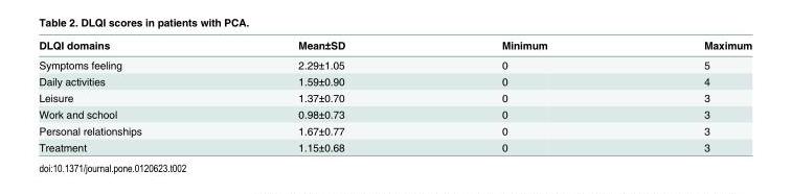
<table><thead><tr><td>DLQI domains</td><td>Mean±SD</td><td>Minimum</td><td>Maximum</td></tr></thead><tbody><tr><td>Symptoms feeling</td><td>2.29±1.05</td><td>0</td><td>5</td></tr><tr><td>Daily activities</td><td>1.59±0.90</td><td>0</td><td>4</td></tr><tr><td>Leisure</td><td>1.37±0.70</td><td>0</td><td>3</td></tr><tr><td>Work and school</td><td>0.98±0.73</td><td>0</td><td>3</td></tr><tr><td>Personal relationships</td><td>1.67±0.77</td><td>0</td><td>3</td></tr><tr><td>Treatment</td><td>1.15±0.68</td><td>0</td><td>3</td></tr></tbody></table>